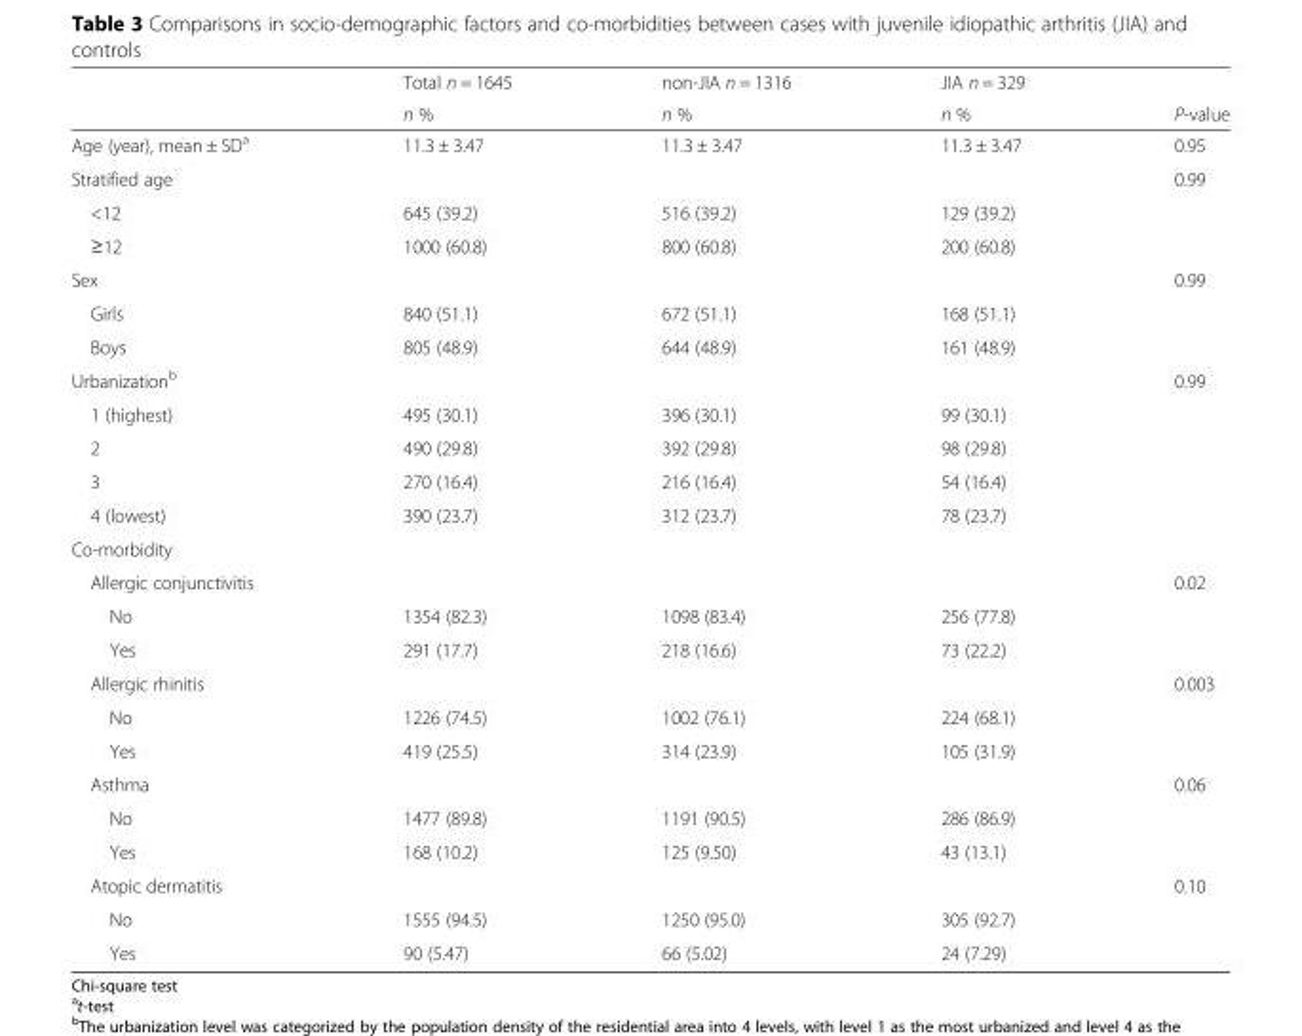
<table><thead><tr><td rowspan="2"></td><td rowspan="2">Total n = 1645 n %</td><td rowspan="2">non-JIA n = 1316 n %</td><td rowspan="2">JIA n = 329 n %</td><td rowspan="2">P-value</td></tr><tr></tr></thead><tbody><tr><td>Age (year), mean ± SD<sup>a</sup></td><td>11.3 ± 3.47</td><td>11.3 ± 3.47</td><td>11.3 ± 3.47</td><td>0.95</td></tr><tr><td>Stratified age</td><td></td><td></td><td></td><td>0.99</td></tr><tr><td>&lt;12</td><td>645 (39.2)</td><td>516 (39.2)</td><td>129 (39.2)</td><td></td></tr><tr><td>≥12</td><td>1000 (60.8)</td><td>800 (60.8)</td><td>200 (60.8)</td><td></td></tr><tr><td>Sex</td><td></td><td></td><td></td><td>0.99</td></tr><tr><td>Girls</td><td>840 (51.1)</td><td>672 (51.1)</td><td>168 (51.1)</td><td></td></tr><tr><td>Boys</td><td>805 (48.9)</td><td>644 (48.9)</td><td>161 (48.9)</td><td></td></tr><tr><td>Urbanization<sup>b</sup></td><td></td><td></td><td></td><td>0.99</td></tr><tr><td>1 (highest)</td><td>495 (30.1)</td><td>396 (30.1)</td><td>99 (30.1)</td><td></td></tr><tr><td>2</td><td>490 (29.8)</td><td>392 (29.8)</td><td>98 (29.8)</td><td></td></tr><tr><td>3</td><td>270 (16.4)</td><td>216 (16.4)</td><td>54 (16.4)</td><td></td></tr><tr><td>4 (lowest)</td><td>390 (23.7)</td><td>312 (23.7)</td><td>78 (23.7)</td><td></td></tr><tr><td colspan="5">Co-morbidity</td></tr><tr><td>Allergic conjunctivitis</td><td></td><td></td><td></td><td>0.02</td></tr><tr><td>No</td><td>1354 (82.3)</td><td>1098 (83.4)</td><td>256 (77.8)</td><td></td></tr><tr><td>Yes</td><td>291 (17.7)</td><td>218 (16.6)</td><td>73 (22.2)</td><td></td></tr><tr><td>Allergic rhinitis</td><td></td><td></td><td></td><td>0.003</td></tr><tr><td>No</td><td>1226 (74.5)</td><td>1002 (76.1)</td><td>224 (68.1)</td><td></td></tr><tr><td>Yes</td><td>419 (25.5)</td><td>314 (23.9)</td><td>105 (31.9)</td><td></td></tr><tr><td>Asthma</td><td></td><td></td><td></td><td>0.06</td></tr><tr><td>No</td><td>1477 (89.8)</td><td>1191 (90.5)</td><td>286 (86.9)</td><td></td></tr><tr><td>Yes</td><td>168 (10.2)</td><td>125 (9.50)</td><td>43 (13.1)</td><td></td></tr><tr><td>Atopic dermatitis</td><td></td><td></td><td></td><td>0.10</td></tr><tr><td>No</td><td>1555 (94.5)</td><td>1250 (95.0)</td><td>305 (92.7)</td><td></td></tr><tr><td>Yes</td><td>90 (5.47)</td><td>66 (5.02)</td><td>24 (7.29)</td><td></td></tr></tbody></table>